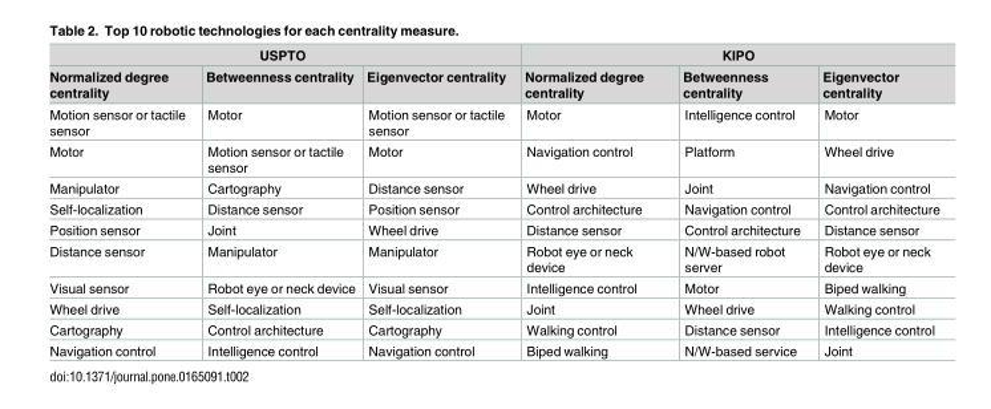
<table><thead><tr><td colspan="3">USPTO</td><td colspan="3">KIPO</td></tr><tr><td>Normalized degree centrality</td><td>Betweenness centrality</td><td>Eigenvector centrality</td><td>Normalized degree centrality</td><td>Betweenness centrality</td><td>Eigenvector centrality</td></tr></thead><tbody><tr><td>Motion sensor or tactile sensor</td><td>Motor</td><td>Motion sensor or tactile sensor</td><td>Motor</td><td>Intelligence control</td><td>Motor</td></tr><tr><td>Motor</td><td>Motion sensor or tactile sensor</td><td>Motor</td><td>Navigation control</td><td>Platform</td><td>Wheel drive</td></tr><tr><td>Manipulator</td><td>Cartography</td><td>Distance sensor</td><td>Wheel drive</td><td>Joint</td><td>Navigation control</td></tr><tr><td>Self-localization</td><td>Distance sensor</td><td>Position sensor</td><td>Control architecture</td><td>Navigation control</td><td>Control architecture</td></tr><tr><td>Position sensor</td><td>Joint</td><td>Wheel drive</td><td>Distance sensor</td><td>Control architecture</td><td>Distance sensor</td></tr><tr><td>Distance sensor</td><td>Manipulator</td><td>Manipulator</td><td>Robot eye or neck device</td><td>N/W-based robot server</td><td>Robot eye or neck device</td></tr><tr><td>Visual sensor</td><td>Robot eye or neck device</td><td>Visual sensor</td><td>Intelligence control</td><td>Motor</td><td>Biped walking</td></tr><tr><td>Wheel drive</td><td>Self-localization</td><td>Self-localization</td><td>Joint</td><td>Wheel drive</td><td>Walking control</td></tr><tr><td>Cartography</td><td>Control architecture</td><td>Cartography</td><td>Walking control</td><td>Distance sensor</td><td>Intelligence control</td></tr><tr><td>Navigation control</td><td>Intelligence control</td><td>Navigation control</td><td>Biped walking</td><td>N/W-based service</td><td>Joint</td></tr></tbody></table>